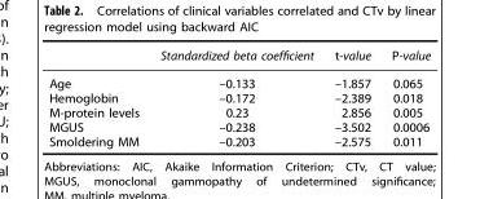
<table><thead><tr><td></td><td>Standardized beta coefficient</td><td>t-value</td><td>P-value</td></tr></thead><tbody><tr><td>Age</td><td>–0.133</td><td>–1.857</td><td>0.065</td></tr><tr><td>Hemoglobin</td><td>–0.172</td><td>–2.389</td><td>0.018</td></tr><tr><td>M-protein levels</td><td>0.23</td><td>2.856</td><td>0.005</td></tr><tr><td>MGUS</td><td>–0.238</td><td>–3.502</td><td>0.0006</td></tr><tr><td>Smoldering MM</td><td>–0.203</td><td>–2.575</td><td>0.011</td></tr></tbody></table>